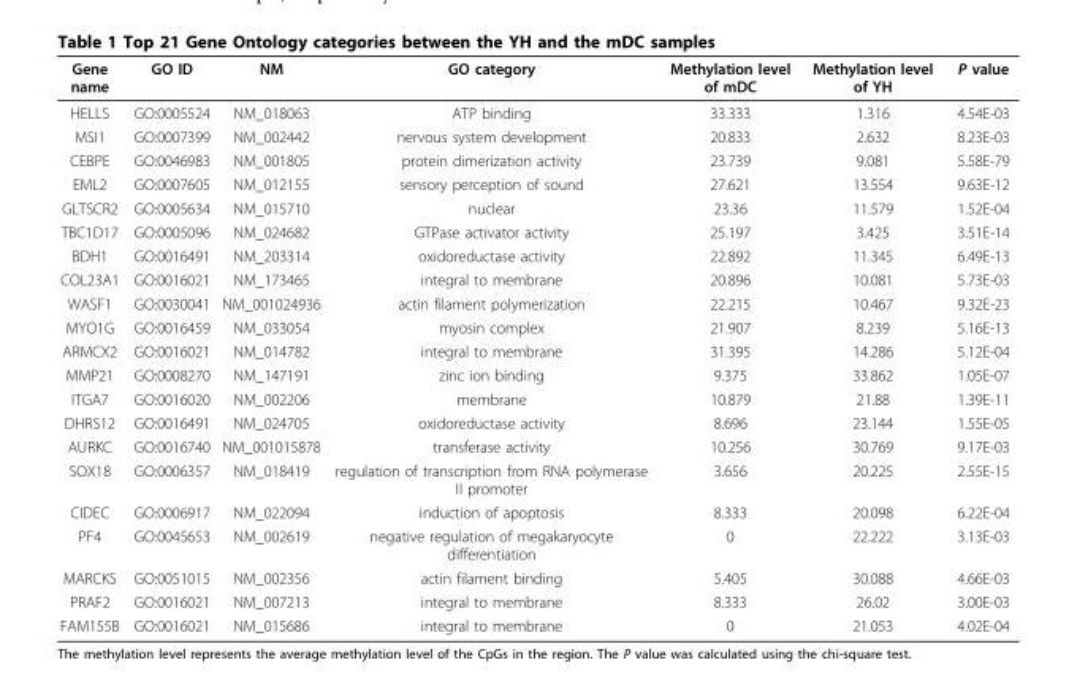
<table><thead><tr><td>Gene name</td><td>GO ID</td><td>NM</td><td>GO category</td><td>Methylation level of mDC</td><td>Methylation level of YH</td><td>P value</td></tr></thead><tbody><tr><td>HELLS</td><td>GO:0005524</td><td>NM_018063</td><td>ATP binding</td><td>33.333</td><td>1.316</td><td>4.54E-03</td></tr><tr><td>MSI1</td><td>GO:0007399</td><td>NM_002442</td><td>nervous system development</td><td>20.833</td><td>2.632</td><td>8.23E-03</td></tr><tr><td>CEBPE</td><td>GO:0046983</td><td>NM_001805</td><td>protein dimerization activity</td><td>23.739</td><td>9.081</td><td>5.58E-79</td></tr><tr><td>EML2</td><td>GO:0007605</td><td>NM_012155</td><td>sensory perception of sound</td><td>27.621</td><td>13.554</td><td>9.63E-12</td></tr><tr><td>GLTSCR2</td><td>GO:0005634</td><td>NM_015710</td><td>nuclear</td><td>23.36</td><td>11.579</td><td>1.52E-04</td></tr><tr><td>TBC1D17</td><td>GO:0005096</td><td>NM_024682</td><td>GTPase activator activity</td><td>25.197</td><td>3.425</td><td>3.51E-14</td></tr><tr><td>BDH1</td><td>GO:0016491</td><td>NM_203314</td><td>oxidoreductase activity</td><td>22.892</td><td>11.345</td><td>6.49E-13</td></tr><tr><td>COL23A1</td><td>GO:0016021</td><td>NM_173465</td><td>integral to membrane</td><td>20.896</td><td>10.081</td><td>5.73E-03</td></tr><tr><td>WASF1</td><td>GO:0030041</td><td>NM_001024936</td><td>actin filament polymerization</td><td>22.215</td><td>10.467</td><td>9.32E-23</td></tr><tr><td>MYO1G</td><td>GO:0016459</td><td>NM_033054</td><td>myosin complex</td><td>21.907</td><td>8.239</td><td>5.16E-13</td></tr><tr><td>ARMCX2</td><td>GO:0016021</td><td>NM_014782</td><td>integral to membrane</td><td>31.395</td><td>14.286</td><td>5.12E-04</td></tr><tr><td>MMP21</td><td>GO:0008270</td><td>NM_147191</td><td>zinc ion binding</td><td>9.375</td><td>33.862</td><td>1.05E-07</td></tr><tr><td>ITGA7</td><td>GO:0016020</td><td>NM_002206</td><td>membrane</td><td>10.879</td><td>21.88</td><td>1.39E-11</td></tr><tr><td>DHRS12</td><td>GO:0016491</td><td>NM_024705</td><td>oxidoreductase activity</td><td>8.696</td><td>23.144</td><td>1.55E-05</td></tr><tr><td>AURKC</td><td>GO:0016740</td><td>NM_001015878</td><td>transferase activity</td><td>10.256</td><td>30.769</td><td>9.17E-03</td></tr><tr><td>SOX18</td><td>GO:0006357</td><td>NM_018419</td><td>regulation of transcription from RNA polymerase II promoter</td><td>3.656</td><td>20.225</td><td>2.55E-15</td></tr><tr><td>CIDEC</td><td>GO:0006917</td><td>NM_022094</td><td>induction of apoptosis</td><td>8.333</td><td>20.098</td><td>6.22E-04</td></tr><tr><td>PF4</td><td>GO:0045653</td><td>NM_002619</td><td>negative regulation of megakaryocyte differentiation</td><td>0</td><td>22.222</td><td>3.13E-03</td></tr><tr><td>MARCKS</td><td>GO:0051015</td><td>NM_002356</td><td>actin filament binding</td><td>5.405</td><td>30.088</td><td>4.66E-03</td></tr><tr><td>PRAF2</td><td>GO:0016021</td><td>NM_007213</td><td>integral to membrane</td><td>8.333</td><td>26.02</td><td>3.00E-03</td></tr><tr><td>FAM155B</td><td>GO:0016021</td><td>NM_015686</td><td>integral to membrane</td><td>0</td><td>21.053</td><td>4.02E-04</td></tr></tbody></table>